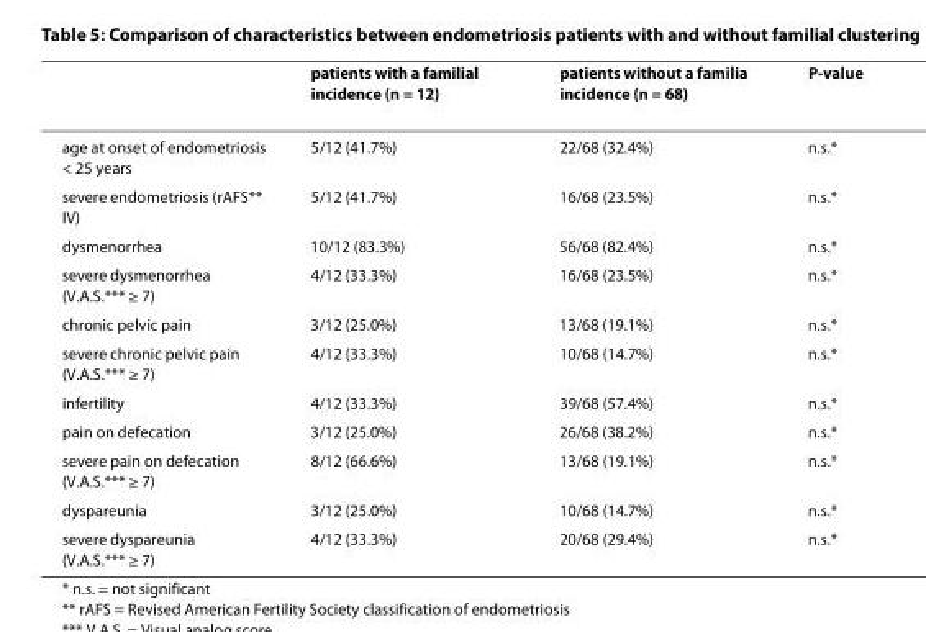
<table><thead><tr><td></td><td>patients with a familial incidence (n = 12)</td><td>patients without a familia incidence (n = 68)</td><td>P-value</td></tr></thead><tbody><tr><td>age at onset of endometriosis &lt; 25 years</td><td>5/12 (41.7%)</td><td>22/68 (32.4%)</td><td>n.s.*</td></tr><tr><td>severe endometriosis (rAFS** IV)</td><td>5/12 (41.7%)</td><td>16/68 (23.5%)</td><td>n.s.*</td></tr><tr><td>dysmenorrhea</td><td>10/12 (83.3%)</td><td>56/68 (82.4%)</td><td>n.s.*</td></tr><tr><td>severe dysmenorrhea (V.A.S.*** ≥ 7)</td><td>4/12 (33.3%)</td><td>16/68 (23.5%)</td><td>n.s.*</td></tr><tr><td>chronic pelvic pain</td><td>3/12 (25.0%)</td><td>13/68 (19.1%)</td><td>n.s.*</td></tr><tr><td>severe chronic pelvic pain (V.A.S.*** ≥ 7)</td><td>4/12 (33.3%)</td><td>10/68 (14.7%)</td><td>n.s.*</td></tr><tr><td>infertility</td><td>4/12 (33.3%)</td><td>39/68 (57.4%)</td><td>n.s.*</td></tr><tr><td>pain on defecation</td><td>3/12 (25.0%)</td><td>26/68 (38.2%)</td><td>n.s.*</td></tr><tr><td>severe pain on defecation (V.A.S.*** ≥ 7)</td><td>8/12 (66.6%)</td><td>13/68 (19.1%)</td><td>n.s.*</td></tr><tr><td>dyspareunia</td><td>3/12 (25.0%)</td><td>10/68 (14.7%)</td><td>n.s.*</td></tr><tr><td>severe dyspareunia (V.A.S.*** ≥ 7)</td><td>4/12 (33.3%)</td><td>20/68 (29.4%)</td><td>n.s.*</td></tr></tbody></table>